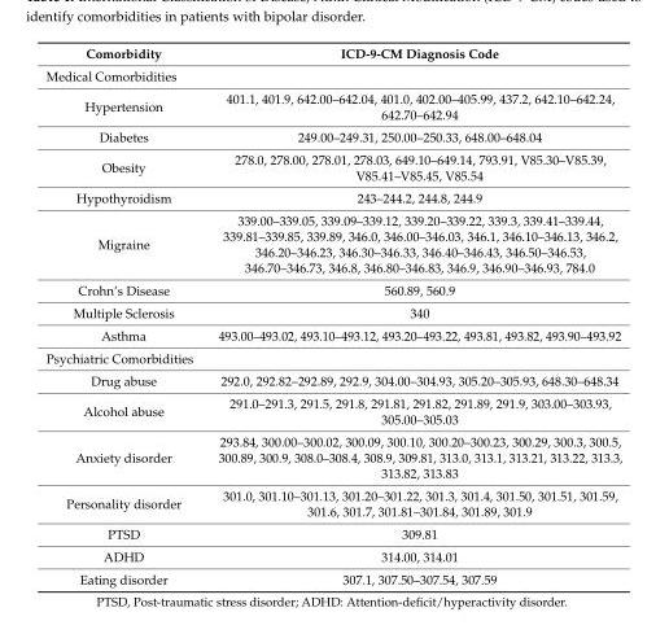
<table><thead><tr><td>Comorbidity</td><td>ICD-9-CM Diagnosis Code</td></tr></thead><tbody><tr><td colspan="2">Medical Comorbidities</td></tr><tr><td>Hypertension</td><td>401.1, 401.9, 642.00–642.04, 401.0, 402.00–405.99, 437.2, 642.10–642.24, 642.70–642.94</td></tr><tr><td>Diabetes</td><td>249.00–249.31, 250.00–250.33, 648.00–648.04</td></tr><tr><td>Obesity</td><td>278.0, 278.00, 278.01, 278.03, 649.10–649.14, 793.91, V85.30–V85.39, V85.41–V85.45, V85.54</td></tr><tr><td>Hypothyroidism</td><td>243–244.2, 244.8, 244.9</td></tr><tr><td>Migraine</td><td>339.00–339.05, 339.09–339.12, 339.20–339.22, 339.3, 339.41–339.44, 339.81–339.85, 339.89, 346.0, 346.00–346.03, 346.1, 346.10–346.13, 346.2, 346.20–346.23, 346.30–346.33, 346.40–346.43, 346.50–346.53, 346.70–346.73, 346.8, 346.80–346.83, 346.9, 346.90–346.93, 784.0</td></tr><tr><td>Crohn’s Disease</td><td>560.89, 560.9</td></tr><tr><td>Multiple Sclerosis</td><td>340</td></tr><tr><td>Asthma</td><td>493.00–493.02, 493.10–493.12, 493.20–493.22, 493.81, 493.82, 493.90–493.92</td></tr><tr><td colspan="2">Psychiatric Comorbidities</td></tr><tr><td>Drug abuse</td><td>292.0, 292.82–292.89, 292.9, 304.00–304.93, 305.20–305.93, 648.30–648.34</td></tr><tr><td>Alcohol abuse</td><td>291.0–291.3, 291.5, 291.8, 291.81, 291.82, 291.89, 291.9, 303.00–303.93, 305.00–305.03</td></tr><tr><td>Anxiety disorder</td><td>293.84, 300.00–300.02, 300.09, 300.10, 300.20–300.23, 300.29, 300.3, 300.5, 300.89, 300.9, 308.0–308.4, 308.9, 309.81, 313.0, 313.1, 313.21, 313.22, 313.3, 313.82, 313.83</td></tr><tr><td>Personality disorder</td><td>301.0, 301.10–301.13, 301.20–301.22, 301.3, 301.4, 301.50, 301.51, 301.59, 301.6, 301.7, 301.81–301.84, 301.89, 301.9</td></tr><tr><td>PTSD</td><td>309.81</td></tr><tr><td>ADHD</td><td>314.00, 314.01</td></tr><tr><td>Eating disorder</td><td>307.1, 307.50–307.54, 307.59</td></tr></tbody></table>